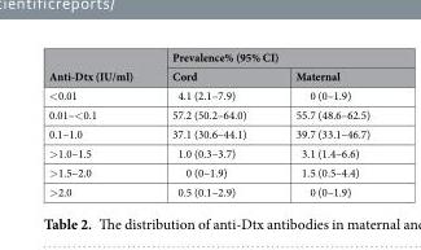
<table><thead><tr><td rowspan="2">Anti-Dtx (IU/ml)</td><td colspan="2">Prevalence% (95% CI)</td></tr><tr><td>Cord</td><td>Maternal</td></tr></thead><tbody><tr><td>&lt;0.01</td><td>4.1 (2.1–7.9)</td><td>0 (0–1.9)</td></tr><tr><td>0.01–&lt;0.1</td><td>57.2 (50.2–64.0)</td><td>55.7 (48.6–62.5)</td></tr><tr><td>0.1–1.0</td><td>37.1 (30.6–44.1)</td><td>39.7 (33.1–46.7)</td></tr><tr><td>&gt;1.0–1.5</td><td>1.0 (0.3–3.7)</td><td>3.1 (1.4–6.6)</td></tr><tr><td>&gt;1.5–2.0</td><td>0 (0–1.9)</td><td>1.5 (0.5–4.4)</td></tr><tr><td>&gt;2.0</td><td>0.5 (0.1–2.9)</td><td>0 (0–1.9)</td></tr></tbody></table>